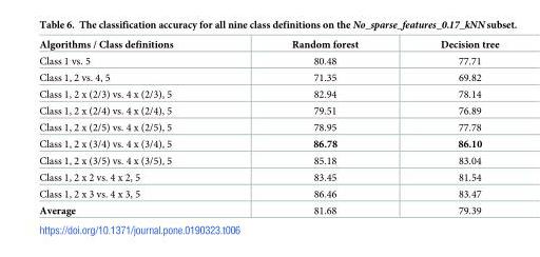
<table><thead><tr><td>Algorithms / Class definitions</td><td>Random forest</td><td>Decision tree</td></tr></thead><tbody><tr><td>Class 1 vs. 5</td><td>80.48</td><td>77.71</td></tr><tr><td>Class 1, 2 vs. 4, 5</td><td>71.35</td><td>69.82</td></tr><tr><td>Class 1, 2 x (2/3) vs. 4 x (2/3), 5</td><td>82.94</td><td>78.14</td></tr><tr><td>Class 1, 2 x (2/4) vs. 4 x (2/4), 5</td><td>79.51</td><td>76.89</td></tr><tr><td>Class 1, 2 x (2/5) vs. 4 x (2/5), 5</td><td>78.95</td><td>77.78</td></tr><tr><td>Class 1, 2 x (3/4) vs. 4 x (3/4), 5</td><td>86.78</td><td>86.10</td></tr><tr><td>Class 1, 2 x (3/5) vs. 4 x (3/5), 5</td><td>85.18</td><td>83.04</td></tr><tr><td>Class 1, 2 x 2 vs. 4 x 2, 5</td><td>83.45</td><td>81.54</td></tr><tr><td>Class 1, 2 x 3 vs. 4 x 3, 5</td><td>86.46</td><td>83.47</td></tr><tr><td>Average</td><td>81.68</td><td>79.39</td></tr></tbody></table>